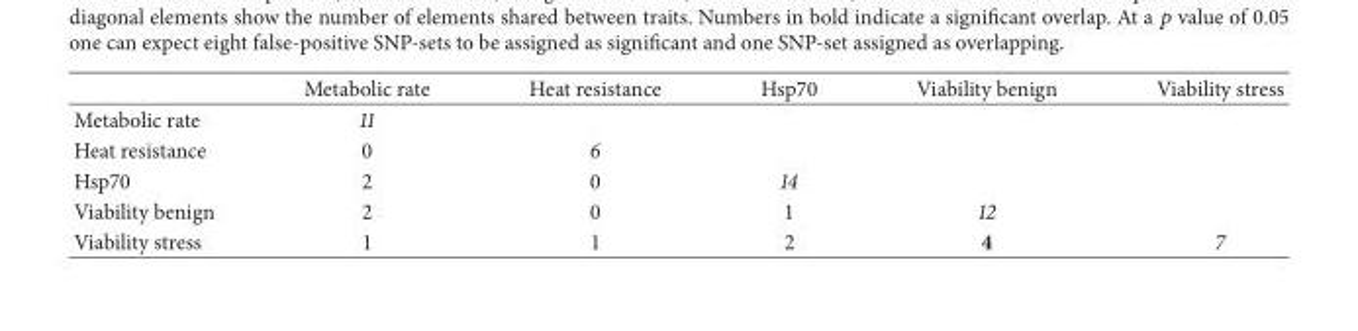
<table><thead><tr><td></td><td>Metabolic rate</td><td>Heat resistance</td><td>Hsp70</td><td>Viability benign</td><td>Viability stress</td></tr></thead><tbody><tr><td>Metabolic rate</td><td>11</td><td></td><td></td><td></td><td></td></tr><tr><td>Heat resistance</td><td>0</td><td>6</td><td></td><td></td><td></td></tr><tr><td>Hsp70</td><td>2</td><td>0</td><td>14</td><td></td><td></td></tr><tr><td>Viability benign</td><td>2</td><td>0</td><td>1</td><td>12</td><td></td></tr><tr><td>Viability stress</td><td>1</td><td>1</td><td>2</td><td>4</td><td>7</td></tr></tbody></table>